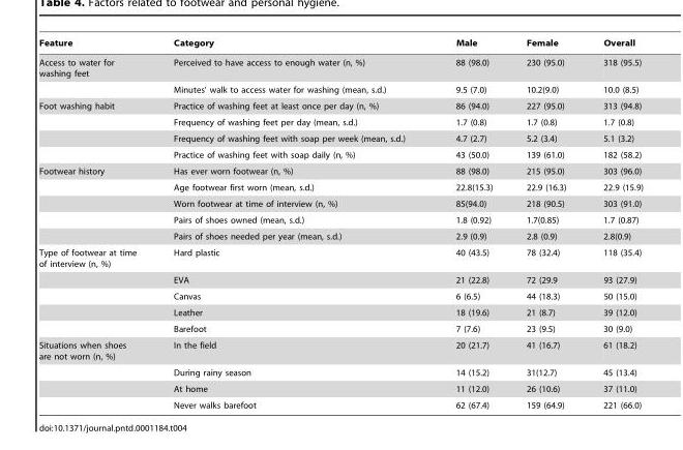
<table><thead><tr><td>Feature</td><td>Category</td><td>Male</td><td>Female</td><td>Overall</td></tr></thead><tbody><tr><td rowspan="2">Access to water for washing feet</td><td>Perceived to have access to enough water (n, %)</td><td>88 (98.0)</td><td>230 (95.0)</td><td>318 (95.5)</td></tr><tr><td>Minutes’ walk to access water for washing (mean, s.d.)</td><td>9.5 (7.0)</td><td>10.2(9.0)</td><td>10.0 (8.5)</td></tr><tr><td rowspan="4">Foot washing habit</td><td>Practice of washing feet at least once per day (n, %)</td><td>86 (94.0)</td><td>227 (95.0)</td><td>313 (94.8)</td></tr><tr><td>Frequency of washing feet per day (mean, s.d.)</td><td>1.7 (0.8)</td><td>1.7 (0.8)</td><td>1.7 (0.8)</td></tr><tr><td>Frequency of washing feet with soap per week (mean, s.d.)</td><td>4.7 (2.7)</td><td>5.2 (3.4)</td><td>5.1 (3.2)</td></tr><tr><td>Practice of washing feet with soap daily (n, %)</td><td>43 (50.0)</td><td>139 (61.0)</td><td>182 (58.2)</td></tr><tr><td rowspan="5">Footwear history</td><td>Has ever worn footwear (n, %)</td><td>88 (98.0)</td><td>215 (95.0)</td><td>303 (96.0)</td></tr><tr><td>Age footwear first worn (mean, s.d.)</td><td>22.8(15.3)</td><td>22.9 (16.3)</td><td>22.9 (15.9)</td></tr><tr><td>Worn footwear at time of interview (n, %)</td><td>85(94.0)</td><td>218 (90.5)</td><td>303 (91.0)</td></tr><tr><td>Pairs of shoes owned (mean, s.d.)</td><td>1.8 (0.92)</td><td>1.7(0.85)</td><td>1.7 (0.87)</td></tr><tr><td>Pairs of shoes needed per year (mean, s.d.)</td><td>2.9 (0.9)</td><td>2.8 (0.9)</td><td>2.8(0.9)</td></tr><tr><td rowspan="5">Type of footwear at time of interview (n, %)</td><td>Hard plastic</td><td>40 (43.5)</td><td>78 (32.4)</td><td>118 (35.4)</td></tr><tr><td>EVA</td><td>21 (22.8)</td><td>72 (29.9</td><td>93 (27.9)</td></tr><tr><td>Canvas</td><td>6 (6.5)</td><td>44 (18.3)</td><td>50 (15.0)</td></tr><tr><td>Leather</td><td>18 (19.6)</td><td>21 (8.7)</td><td>39 (12.0)</td></tr><tr><td>Barefoot</td><td>7 (7.6)</td><td>23 (9.5)</td><td>30 (9.0)</td></tr><tr><td rowspan="4">Situations when shoes are not worn (n, %)</td><td>In the field</td><td>20 (21.7)</td><td>41 (16.7)</td><td>61 (18.2)</td></tr><tr><td>During rainy season</td><td>14 (15.2)</td><td>31(12.7)</td><td>45 (13.4)</td></tr><tr><td>At home</td><td>11 (12.0)</td><td>26 (10.6)</td><td>37 (11.0)</td></tr><tr><td>Never walks barefoot</td><td>62 (67.4)</td><td>159 (64.9)</td><td>221 (66.0)</td></tr></tbody></table>